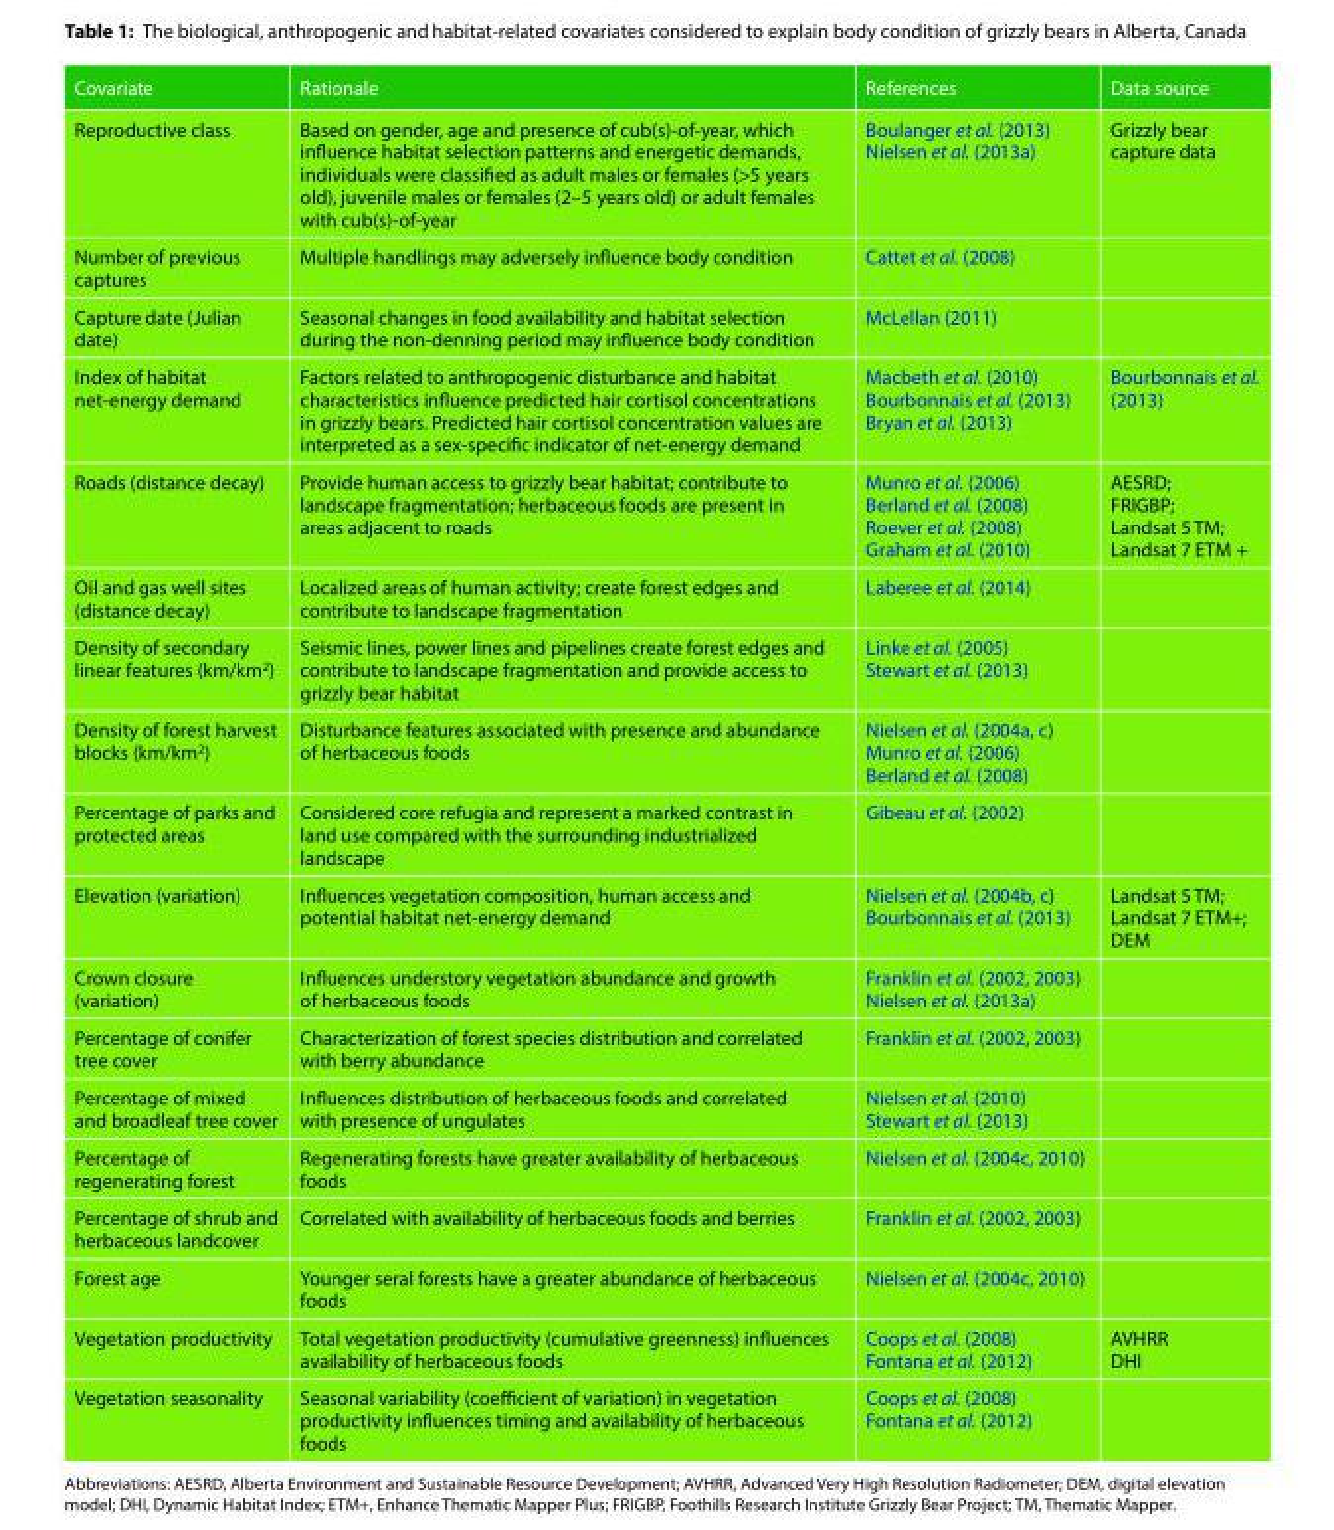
<table><thead><tr><td>Covariate</td><td>Rationale</td><td>References</td><td>Data source</td></tr></thead><tbody><tr><td>Reproductive class</td><td>Based on gender, age and presence of cub(s)-of-year, which influence habitat selection patterns and energetic demands, individuals were classified as adult males or females (&gt;5 years old), juvenile males or females (2–5 years old) or adult females with cub(s)-of-year</td><td>Boulanger et al. (2013) Nielsen et al. (2013a)</td><td>Grizzly bear capture data</td></tr><tr><td>Number of previous captures</td><td>Multiple handlings may adversely influence body condition</td><td>Cattet et al. (2008)</td><td></td></tr><tr><td>Capture date (Julian date)</td><td>Seasonal changes in food availability and habitat selection during the non-denning period may influence body condition</td><td>McLellan (2011)</td><td></td></tr><tr><td>Index of habitat net-energy demand</td><td>Factors related to anthropogenic disturbance and habitat characteristics influence predicted hair cortisol concentrations in grizzly bears. Predicted hair cortisol concentration values are interpreted as a sex-specific indicator of net-energy demand</td><td>Macbeth et al. (2010) Bourbonnais et al. (2013) Bryan et al. (2013)</td><td>Bourbonnais et al. (2013)</td></tr><tr><td>Roads (distance decay)</td><td>Provide human access to grizzly bear habitat; contribute to landscape fragmentation; herbaceous foods are present in areas adjacent to roads</td><td>Munro et al. (2006) Berland et al. (2008) Roever et al. (2008) Graham et al. (2010)</td><td>AESRD; FRIGBP; Landsat 5 TM; Landsat 7 ETM +</td></tr><tr><td>Oil and gas well sites (distance decay)</td><td>Localized areas of human activity; create forest edges and contribute to landscape fragmentation</td><td>Laberee et al. (2014)</td><td></td></tr><tr><td>Density of secondary linear features (km/km<sup>2</sup>)</td><td>Seismic lines, power lines and pipelines create forest edges and contribute to landscape fragmentation and provide access to grizzly bear habitat</td><td>Linke et al. (2005) Stewart et al. (2013)</td><td></td></tr><tr><td>Density of forest harvest blocks (km/km<sup>2</sup>)</td><td>Disturbance features associated with presence and abundance of herbaceous foods</td><td>Nielsen et al. (2004a, c) Munro et al. (2006) Berland et al. (2008)</td><td></td></tr><tr><td>Percentage of parks and protected areas</td><td>Considered core refugia and represent a marked contrast in land use compared with the surrounding industrialized landscape</td><td>Gibeau et al. (2002)</td><td></td></tr><tr><td>Elevation (variation)</td><td>Influences vegetation composition, human access and potential habitat net-energy demand</td><td>Nielsen et al. (2004b, c) Bourbonnais et al. (2013)</td><td>Landsat 5 TM; Landsat 7 ETM+; DEM</td></tr><tr><td>Crown closure (variation)</td><td>Influences understory vegetation abundance and growth of herbaceous foods</td><td>Franklin et al. (2002, 2003) Nielsen et al. (2013a)</td><td></td></tr><tr><td>Percentage of conifer tree cover</td><td>Characterization of forest species distribution and correlated with berry abundance</td><td>Franklin et al. (2002, 2003)</td><td></td></tr><tr><td>Percentage of mixed and broadleaf tree cover</td><td>Influences distribution of herbaceous foods and correlated with presence of ungulates</td><td>Nielsen et al. (2010) Stewart et al. (2013)</td><td></td></tr><tr><td>Percentage of regenerating forest</td><td>Regenerating forests have greater availability of herbaceous foods</td><td>Nielsen et al. (2004c, 2010)</td><td></td></tr><tr><td>Percentage of shrub and herbaceous landcover</td><td>Correlated with availability of herbaceous foods and berries</td><td>Franklin et al. (2002, 2003)</td><td></td></tr><tr><td>Forest age</td><td>Younger seral forests have a greater abundance of herbaceous foods</td><td>Nielsen et al. (2004c, 2010)</td><td></td></tr><tr><td>Vegetation productivity</td><td>Total vegetation productivity (cumulative greenness) influences availability of herbaceous foods</td><td>Coops et al. (2008) Fontana et al. (2012)</td><td>AVHRR DHI</td></tr><tr><td>Vegetation seasonality</td><td>Seasonal variability (coefficient of variation) in vegetation productivity influences timing and availability of herbaceous foods</td><td>Coops et al. (2008) Fontana et al. (2012)</td><td></td></tr></tbody></table>